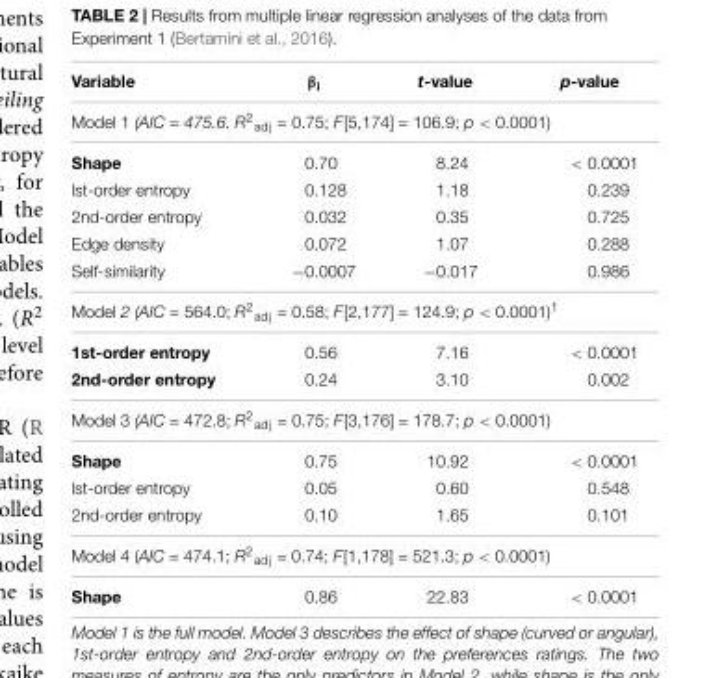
<table><thead><tr><td>Variable</td><td>β<sub>i</sub></td><td>t-value</td><td>p-value</td></tr></thead><tbody><tr><td colspan="4">Model 1 (AIC = 475.6. R<sup>2</sup><sub>adj</sub> = 0.75; F[5,174] = 106.9; p &lt; 0.0001)</td></tr><tr><td>Shape</td><td>0.70</td><td>8.24</td><td>&lt; 0.0001</td></tr><tr><td>lst-order entropy</td><td>0.128</td><td>1.18</td><td>0.239</td></tr><tr><td>2nd-order entropy</td><td>0.032</td><td>0.35</td><td>0.725</td></tr><tr><td>Edge density</td><td>0.072</td><td>1.07</td><td>0.288</td></tr><tr><td>Self-similarity</td><td>−0.0007</td><td>−0.017</td><td>0.986</td></tr><tr><td colspan="4">Model 2 (AIC = 564.0; R<sup>2</sup><sub>adj</sub> = 0.58; F[2,177] = 124.9; p &lt; 0.0001)<sup>1</sup></td></tr><tr><td>1st-order entropy</td><td>0.56</td><td>7.16</td><td>&lt; 0.0001</td></tr><tr><td>2nd-order entropy</td><td>0.24</td><td>3.10</td><td>0.002</td></tr><tr><td colspan="4">Model 3 (AIC = 472.8; R<sup>2</sup><sub>adj</sub> = 0.75; F[3,176] = 178.7; p &lt; 0.0001)</td></tr><tr><td>Shape</td><td>0.75</td><td>10.92</td><td>&lt; 0.0001</td></tr><tr><td>lst-order entropy</td><td>0.05</td><td>0.60</td><td>0.548</td></tr><tr><td>2nd-order entropy</td><td>0.10</td><td>1.65</td><td>0.101</td></tr><tr><td colspan="4">Model 4 (AIC = 474.1; R<sup>2</sup><sub>adj</sub> = 0.74; F[1,178] = 521.3; p &lt; 0.0001)</td></tr><tr><td>Shape</td><td>0.86</td><td>22.83</td><td>&lt; 0.0001</td></tr></tbody></table>